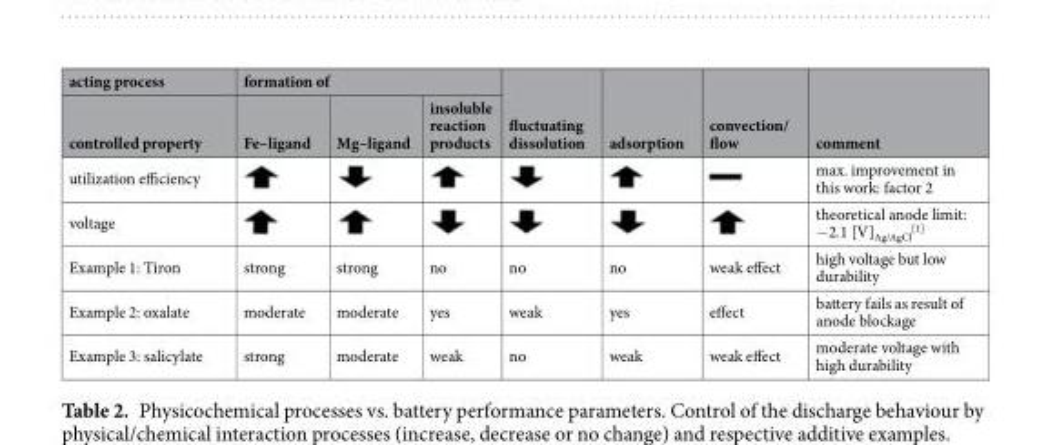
<table><thead><tr><td rowspan="2">acting process controlled property</td><td colspan="3">formation of</td><td rowspan="2">fluctuating dissolution</td><td rowspan="2">adsorption</td><td rowspan="2">convection/ flow</td><td rowspan="2">comment</td></tr><tr><td>Fe–ligand</td><td>Mg–ligand</td><td>insoluble reaction products</td></tr></thead><tbody><tr><td>utilization efficiency</td><td></td><td></td><td></td><td></td><td></td><td></td><td>max. improvement in this work: factor 2</td></tr><tr><td>voltage</td><td></td><td></td><td></td><td></td><td></td><td></td><td>theoretical anode limit: −2.1 [V]<sub>Ag/AgCl</sub> <sup>[1]</sup></td></tr><tr><td>Example 1: Tiron</td><td>strong</td><td>strong</td><td>no</td><td>no</td><td>no</td><td>weak effect</td><td>high voltage but low durability</td></tr><tr><td>Example 2: oxalate</td><td>moderate</td><td>moderate</td><td>yes</td><td>weak</td><td>yes</td><td>effect</td><td>battery fails as result of anode blockage</td></tr><tr><td>Example 3: salicylate</td><td>strong</td><td>moderate</td><td>weak</td><td>no</td><td>weak</td><td>weak effect</td><td>moderate voltage with high durability</td></tr></tbody></table>